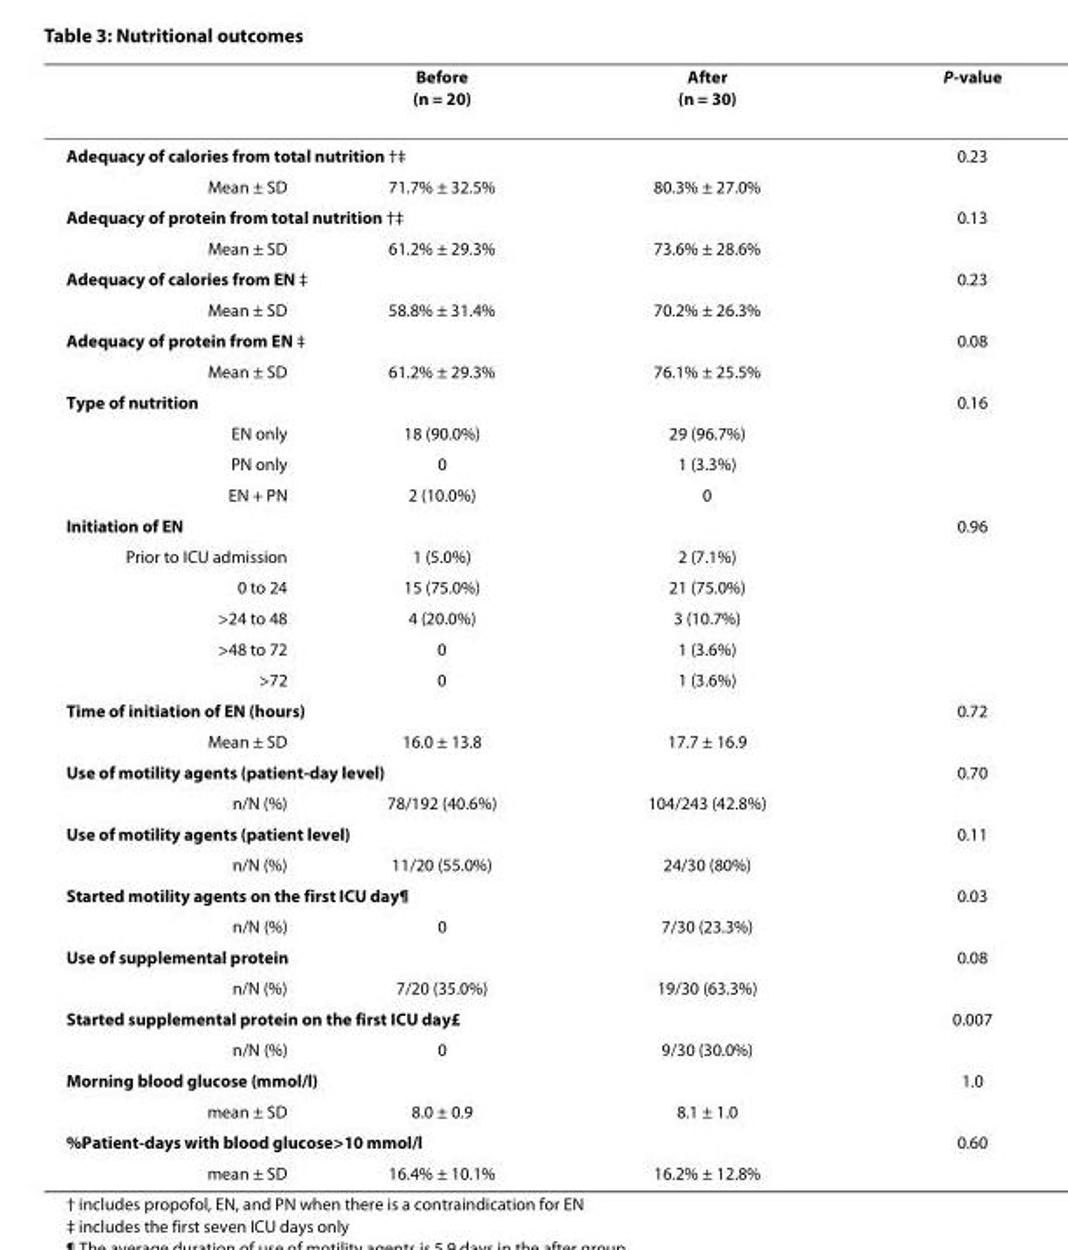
<table><thead><tr><td></td><td>Before (n = 20)</td><td>After (n = 30)</td><td>P-value</td></tr></thead><tbody><tr><td colspan="3">Adequacy of calories from total nutrition †‡</td><td>0.23</td></tr><tr><td>Mean ± SD</td><td>71.7% ± 32.5%</td><td>80.3% ± 27.0%</td><td></td></tr><tr><td colspan="3">Adequacy of protein from total nutrition †‡</td><td>0.13</td></tr><tr><td>Mean ± SD</td><td>61.2% ± 29.3%</td><td>73.6% ± 28.6%</td><td></td></tr><tr><td colspan="3">Adequacy of calories from EN ‡</td><td>0.23</td></tr><tr><td>Mean ± SD</td><td>58.8% ± 31.4%</td><td>70.2% ± 26.3%</td><td></td></tr><tr><td colspan="3">Adequacy of protein from EN ‡</td><td>0.08</td></tr><tr><td>Mean ± SD</td><td>61.2% ± 29.3%</td><td>76.1% ± 25.5%</td><td></td></tr><tr><td colspan="3">Type of nutrition</td><td>0.16</td></tr><tr><td>EN only</td><td>18 (90.0%)</td><td>29 (96.7%)</td><td></td></tr><tr><td>PN only</td><td>0</td><td>1 (3.3%)</td><td></td></tr><tr><td>EN + PN</td><td>2 (10.0%)</td><td>0</td><td></td></tr><tr><td colspan="3">Initiation of EN</td><td>0.96</td></tr><tr><td>Prior to ICU admission</td><td>1 (5.0%)</td><td>2 (7.1%)</td><td></td></tr><tr><td>0 to 24</td><td>15 (75.0%)</td><td>21 (75.0%)</td><td></td></tr><tr><td>&gt;24 to 48</td><td>4 (20.0%)</td><td>3 (10.7%)</td><td></td></tr><tr><td>&gt;48 to 72</td><td>0</td><td>1 (3.6%)</td><td></td></tr><tr><td>&gt;72</td><td>0</td><td>1 (3.6%)</td><td></td></tr><tr><td colspan="3">Time of initiation of EN (hours)</td><td>0.72</td></tr><tr><td>Mean ± SD</td><td>16.0 ± 13.8</td><td>17.7 ± 16.9</td><td></td></tr><tr><td colspan="3">Use of motility agents (patient-day level)</td><td>0.70</td></tr><tr><td>n/N (%)</td><td>78/192 (40.6%)</td><td>104/243 (42.8%)</td><td></td></tr><tr><td colspan="3">Use of motility agents (patient level)</td><td>0.11</td></tr><tr><td>n/N (%)</td><td>11/20 (55.0%)</td><td>24/30 (80%)</td><td></td></tr><tr><td colspan="3">Started motility agents on the first ICU day¶</td><td>0.03</td></tr><tr><td>n/N (%)</td><td>0</td><td>7/30 (23.3%)</td><td></td></tr><tr><td colspan="3">Use of supplemental protein</td><td>0.08</td></tr><tr><td>n/N (%)</td><td>7/20 (35.0%)</td><td>19/30 (63.3%)</td><td></td></tr><tr><td colspan="3">Started supplemental protein on the first ICU day£</td><td>0.007</td></tr><tr><td>n/N (%)</td><td>0</td><td>9/30 (30.0%)</td><td></td></tr><tr><td colspan="3">Morning blood glucose (mmol/l)</td><td>1.0</td></tr><tr><td>mean ± SD</td><td>8.0 ± 0.9</td><td>8.1 ± 1.0</td><td></td></tr><tr><td colspan="3">%Patient-days with blood glucose&gt;10 mmol/l</td><td>0.60</td></tr><tr><td>mean ± SD</td><td>16.4% ± 10.1%</td><td>16.2% ± 12.8%</td><td></td></tr></tbody></table>